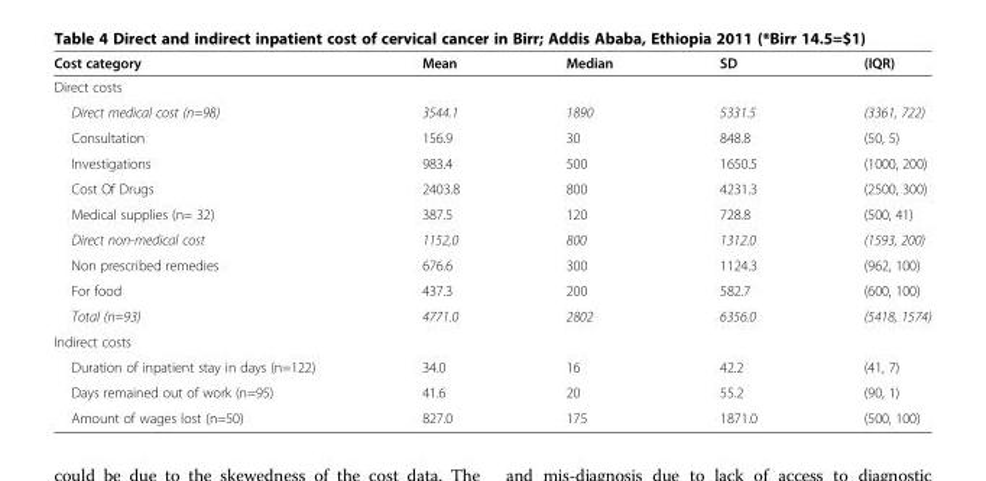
<table><thead><tr><td>Cost category</td><td>Mean</td><td>Median</td><td>SD</td><td>(IQR)</td></tr></thead><tbody><tr><td colspan="5">Direct costs</td></tr><tr><td>Direct medical cost (n=98)</td><td>3544.1</td><td>1890</td><td>5331.5</td><td>(3361, 722)</td></tr><tr><td>Consultation</td><td>156.9</td><td>30</td><td>848.8</td><td>(50, 5)</td></tr><tr><td>Investigations</td><td>983.4</td><td>500</td><td>1650.5</td><td>(1000, 200)</td></tr><tr><td>Cost Of Drugs</td><td>2403.8</td><td>800</td><td>4231.3</td><td>(2500, 300)</td></tr><tr><td>Medical supplies (n= 32)</td><td>387.5</td><td>120</td><td>728.8</td><td>(500, 41)</td></tr><tr><td>Direct non-medical cost</td><td>1152,0</td><td>800</td><td>1312.0</td><td>(1593, 200)</td></tr><tr><td>Non prescribed remedies</td><td>676.6</td><td>300</td><td>1124.3</td><td>(962, 100)</td></tr><tr><td>For food</td><td>437.3</td><td>200</td><td>582.7</td><td>(600, 100)</td></tr><tr><td>Total (n=93)</td><td>4771.0</td><td>2802</td><td>6356.0</td><td>(5418, 1574)</td></tr><tr><td colspan="5">Indirect costs</td></tr><tr><td>Duration of inpatient stay in days (n=122)</td><td>34.0</td><td>16</td><td>42.2</td><td>(41, 7)</td></tr><tr><td>Days remained out of work (n=95)</td><td>41.6</td><td>20</td><td>55.2</td><td>(90, 1)</td></tr><tr><td>Amount of wages lost (n=50)</td><td>827.0</td><td>175</td><td>1871.0</td><td>(500, 100)</td></tr></tbody></table>